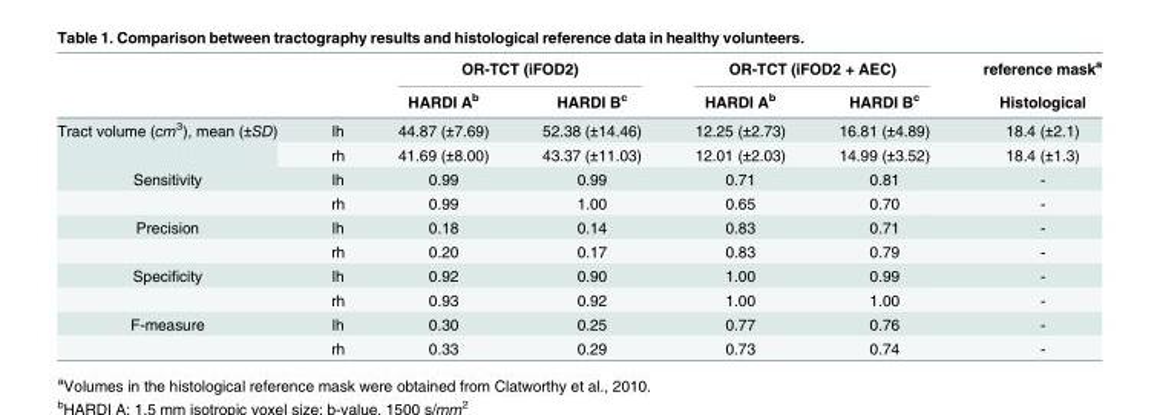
<table><thead><tr><td rowspan="2"></td><td rowspan="2"></td><td colspan="2">OR-TCT (iFOD2)</td><td colspan="2">OR-TCT (iFOD2 + AEC)</td><td rowspan="2">reference mask<sup>a</sup> Histological</td></tr><tr><td>HARDI A<sup>b</sup></td><td>HARDI B<sup>c</sup></td><td>HARDI A<sup>b</sup></td><td>HARDI B<sup>c</sup></td></tr></thead><tbody><tr><td rowspan="2">Tract volume (cm<sup>3</sup>), mean (±SD)</td><td>lh</td><td>44.87 (±7.69)</td><td>52.38 (±14.46)</td><td>12.25 (±2.73)</td><td>16.81 (±4.89)</td><td>18.4 (±2.1)</td></tr><tr><td>rh</td><td>41.69 (±8.00)</td><td>43.37 (±11.03)</td><td>12.01 (±2.03)</td><td>14.99 (±3.52)</td><td>18.4 (±1.3)</td></tr><tr><td rowspan="2">Sensitivity</td><td>lh</td><td>0.99</td><td>0.99</td><td>0.71</td><td>0.81</td><td>-</td></tr><tr><td>rh</td><td>0.99</td><td>1.00</td><td>0.65</td><td>0.70</td><td>-</td></tr><tr><td rowspan="2">Precision</td><td>lh</td><td>0.18</td><td>0.14</td><td>0.83</td><td>0.71</td><td>-</td></tr><tr><td>rh</td><td>0.20</td><td>0.17</td><td>0.83</td><td>0.79</td><td>-</td></tr><tr><td rowspan="2">Specificity</td><td>lh</td><td>0.92</td><td>0.90</td><td>1.00</td><td>0.99</td><td>-</td></tr><tr><td>rh</td><td>0.93</td><td>0.92</td><td>1.00</td><td>1.00</td><td>-</td></tr><tr><td rowspan="2">F-measure</td><td>lh</td><td>0.30</td><td>0.25</td><td>0.77</td><td>0.76</td><td>-</td></tr><tr><td>rh</td><td>0.33</td><td>0.29</td><td>0.73</td><td>0.74</td><td>-</td></tr></tbody></table>